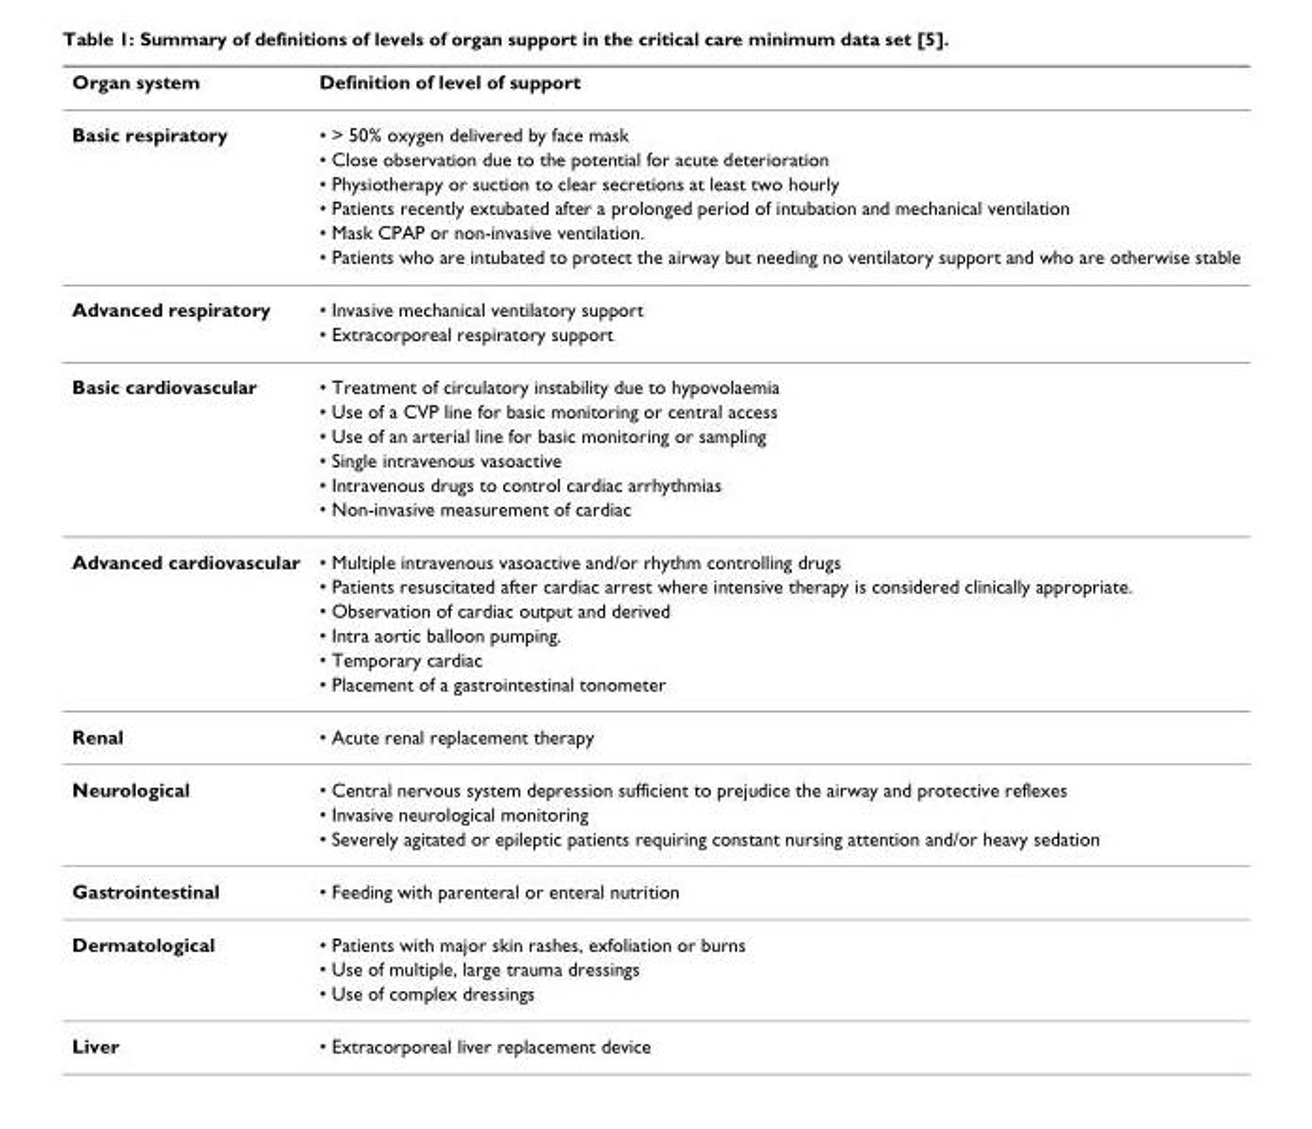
<table><thead><tr><td>Organ system</td><td>Definition of level of support</td></tr></thead><tbody><tr><td rowspan="6">Basic respiratory</td><td>• &gt; 50% oxygen delivered by face mask</td></tr><tr><td>• Close observation due to the potential for acute deterioration</td></tr><tr><td>• Physiotherapy or suction to clear secretions at least two hourly</td></tr><tr><td>• Patients recently extubated after a prolonged period of intubation and mechanical ventilation</td></tr><tr><td>• Mask CPAP or non-invasive ventilation.</td></tr><tr><td>• Patients who are intubated to protect the airway but needing no ventilatory support and who are otherwise stable</td></tr><tr><td rowspan="2">Advanced respiratory</td><td>• Invasive mechanical ventilatory support</td></tr><tr><td>• Extracorporeal respiratory support</td></tr><tr><td rowspan="6">Basic cardiovascular</td><td>• Treatment of circulatory instability due to hypovolaemia</td></tr><tr><td>• Use of a CVP line for basic monitoring or central access</td></tr><tr><td>• Use of an arterial line for basic monitoring or sampling</td></tr><tr><td>• Single intravenous vasoactive</td></tr><tr><td>• Intravenous drugs to control cardiac arrhythmias</td></tr><tr><td>• Non-invasive measurement of cardiac</td></tr><tr><td rowspan="6">Advanced cardiovascular</td><td>• Multiple intravenous vasoactive and/or rhythm controlling drugs</td></tr><tr><td>• Patients resuscitated after cardiac arrest where intensive therapy is considered clinically appropriate.</td></tr><tr><td>• Observation of cardiac output and derived</td></tr><tr><td>• Intra aortic balloon pumping.</td></tr><tr><td>• Temporary cardiac</td></tr><tr><td>• Placement of a gastrointestinal tonometer</td></tr><tr><td>Renal</td><td>• Acute renal replacement therapy</td></tr><tr><td rowspan="3">Neurological</td><td>• Central nervous system depression sufficient to prejudice the airway and protective reflexes</td></tr><tr><td>• Invasive neurological monitoring</td></tr><tr><td>• Severely agitated or epileptic patients requiring constant nursing attention and/or heavy sedation</td></tr><tr><td>Gastrointestinal</td><td>• Feeding with parenteral or enteral nutrition</td></tr><tr><td rowspan="3">Dermatological</td><td>• Patients with major skin rashes, exfoliation or burns</td></tr><tr><td>• Use of multiple, large trauma dressings</td></tr><tr><td>• Use of complex dressings</td></tr><tr><td>Liver</td><td>• Extracorporeal liver replacement device</td></tr></tbody></table>